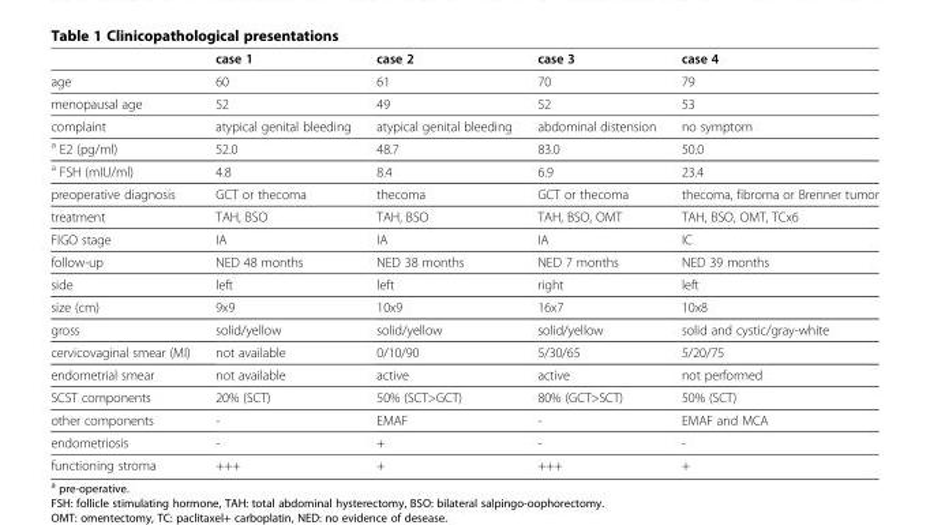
<table><thead><tr><td></td><td>case 1</td><td>case 2</td><td>case 3</td><td>case 4</td></tr></thead><tbody><tr><td>age</td><td>60</td><td>61</td><td>70</td><td>79</td></tr><tr><td>menopausal age</td><td>52</td><td>49</td><td>52</td><td>53</td></tr><tr><td>complaint</td><td>atypical genital bleeding</td><td>atypical genital bleeding</td><td>abdominal distension</td><td>no symptom</td></tr><tr><td><sup>a</sup> E2 (pg/ml)</td><td>52.0</td><td>48.7</td><td>83.0</td><td>50.0</td></tr><tr><td><sup>a</sup> FSH (mIU/ml)</td><td>4.8</td><td>8.4</td><td>6.9</td><td>23.4</td></tr><tr><td>preoperative diagnosis</td><td>GCT or thecoma</td><td>thecoma</td><td>GCT or thecoma</td><td>thecoma, fibroma or Brenner tumor</td></tr><tr><td>treatment</td><td>TAH, BSO</td><td>TAH, BSO</td><td>TAH, BSO, OMT</td><td>TAH, BSO, OMT, TCx6</td></tr><tr><td>FIGO stage</td><td>IA</td><td>IA</td><td>IA</td><td>IC</td></tr><tr><td>follow-up</td><td>NED 48 months</td><td>NED 38 months</td><td>NED 7 months</td><td>NED 39 months</td></tr><tr><td>side</td><td>left</td><td>left</td><td>right</td><td>left</td></tr><tr><td>size (cm)</td><td>9x9</td><td>10x9</td><td>16x7</td><td>10x8</td></tr><tr><td>gross</td><td>solid/yellow</td><td>solid/yellow</td><td>solid/yellow</td><td>solid and cystic/gray-white</td></tr><tr><td>cervicovaginal smear (MI)</td><td>not available</td><td>0/10/90</td><td>5/30/65</td><td>5/20/75</td></tr><tr><td>endometrial smear</td><td>not available</td><td>active</td><td>active</td><td>not performed</td></tr><tr><td>SCST components</td><td>20% (SCT)</td><td>50% (SCT&gt;GCT)</td><td>80% (GCT&gt;SCT)</td><td>50% (SCT)</td></tr><tr><td>other components</td><td>-</td><td>EMAF</td><td>-</td><td>EMAF and MCA</td></tr><tr><td>endometriosis</td><td>-</td><td>+</td><td>-</td><td>-</td></tr><tr><td>functioning stroma</td><td>+++</td><td>+</td><td>+++</td><td>+</td></tr></tbody></table>